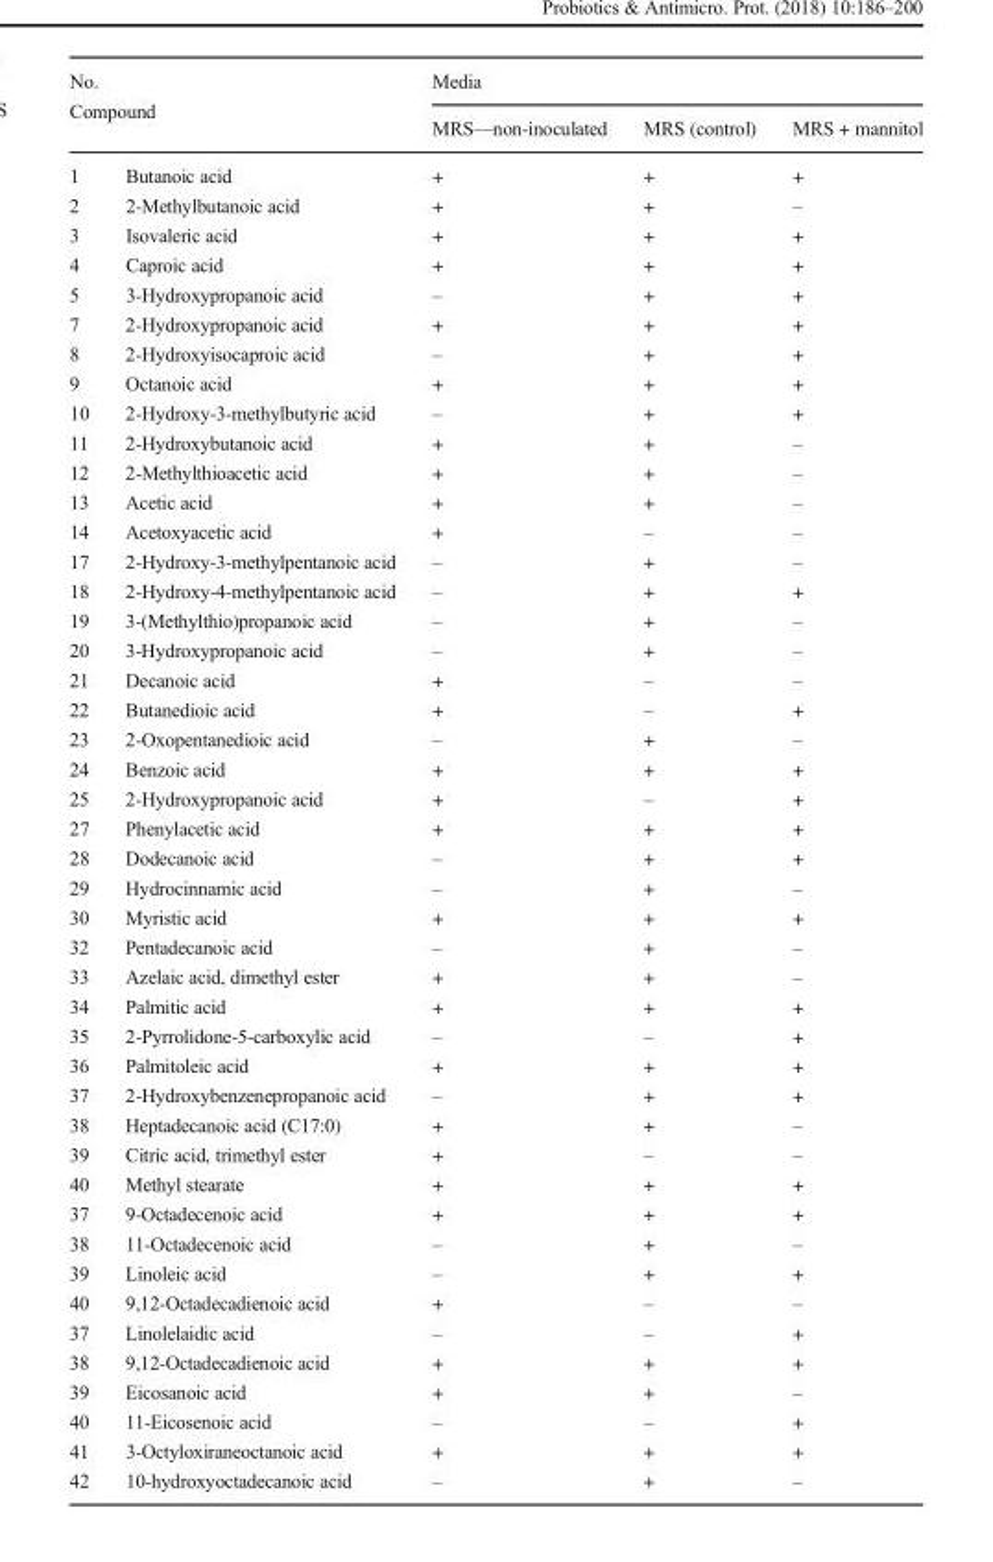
<table><thead><tr><td rowspan="2" colspan="2">No. Compound</td><td colspan="3">Media</td></tr><tr><td rowspan="2">MRS—non-inoculated +</td><td rowspan="2">MRS (control) +</td><td rowspan="2">MRS + mannitol +</td></tr><tr><td>1</td><td>Butanoic acid</td></tr></thead><tbody><tr><td>2</td><td>2-Methylbutanoic acid</td><td>+</td><td>+</td><td>–</td></tr><tr><td>3</td><td>Isovaleric acid</td><td>+</td><td>+</td><td>+</td></tr><tr><td>4</td><td>Caproic acid</td><td>+</td><td>+</td><td>+</td></tr><tr><td>5</td><td>3-Hydroxypropanoic acid</td><td>–</td><td>+</td><td>+</td></tr><tr><td>7</td><td>2-Hydroxypropanoic acid</td><td>+</td><td>+</td><td>+</td></tr><tr><td>8</td><td>2-Hydroxyisocaproic acid</td><td>–</td><td>+</td><td>+</td></tr><tr><td>9</td><td>Octanoic acid</td><td>+</td><td>+</td><td>+</td></tr><tr><td>10</td><td>2-Hydroxy-3-methylbutyric acid</td><td>–</td><td>+</td><td>+</td></tr><tr><td>11</td><td>2-Hydroxybutanoic acid</td><td>+</td><td>+</td><td>–</td></tr><tr><td>12</td><td>2-Methylthioacetic acid</td><td>+</td><td>+</td><td>–</td></tr><tr><td>13</td><td>Acetic acid</td><td>+</td><td>+</td><td>–</td></tr><tr><td>14</td><td>Acetoxyacetic acid</td><td>+</td><td>–</td><td>–</td></tr><tr><td>17</td><td>2-Hydroxy-3-methylpentanoic acid</td><td>–</td><td>+</td><td>–</td></tr><tr><td>18</td><td>2-Hydroxy-4-methylpentanoic acid</td><td>–</td><td>+</td><td>+</td></tr><tr><td>19</td><td>3-(Methylthio)propanoic acid</td><td>–</td><td>+</td><td>–</td></tr><tr><td>20</td><td>3-Hydroxypropanoic acid</td><td>–</td><td>+</td><td>–</td></tr><tr><td>21</td><td>Decanoic acid</td><td>+</td><td>–</td><td>–</td></tr><tr><td>22</td><td>Butanedioic acid</td><td>+</td><td>–</td><td>+</td></tr><tr><td>23</td><td>2-Oxopentanedioic acid</td><td>–</td><td>+</td><td>–</td></tr><tr><td>24</td><td>Benzoic acid</td><td>+</td><td>+</td><td>+</td></tr><tr><td>25</td><td>2-Hydroxypropanoic acid</td><td>+</td><td>–</td><td>+</td></tr><tr><td>27</td><td>Phenylacetic acid</td><td>+</td><td>+</td><td>+</td></tr><tr><td>28</td><td>Dodecanoic acid</td><td>–</td><td>+</td><td>+</td></tr><tr><td>29</td><td>Hydrocinnamic acid</td><td>–</td><td>+</td><td>–</td></tr><tr><td>30</td><td>Myristic acid</td><td>+</td><td>+</td><td>+</td></tr><tr><td>32</td><td>Pentadecanoic acid</td><td>–</td><td>+</td><td>–</td></tr><tr><td>33</td><td>Azelaic acid, dimethyl ester</td><td>+</td><td>+</td><td>–</td></tr><tr><td>34</td><td>Palmitic acid</td><td>+</td><td>+</td><td>+</td></tr><tr><td>35</td><td>2-Pyrrolidone-5-carboxylic acid</td><td>–</td><td>–</td><td>+</td></tr><tr><td>36</td><td>Palmitoleic acid</td><td>+</td><td>+</td><td>+</td></tr><tr><td>37</td><td>2-Hydroxybenzenepropanoic acid</td><td>–</td><td>+</td><td>+</td></tr><tr><td>38</td><td>Heptadecanoic acid (C17:0)</td><td>+</td><td>+</td><td>–</td></tr><tr><td>39</td><td>Citric acid, trimethyl ester</td><td>+</td><td>–</td><td>–</td></tr><tr><td>40</td><td>Methyl stearate</td><td>+</td><td>+</td><td>+</td></tr><tr><td>37</td><td>9-Octadecenoic acid</td><td>+</td><td>+</td><td>+</td></tr><tr><td>38</td><td>11-Octadecenoic acid</td><td>–</td><td>+</td><td>–</td></tr><tr><td>39</td><td>Linoleic acid</td><td>–</td><td>+</td><td>+</td></tr><tr><td>40</td><td>9,12-Octadecadienoic acid</td><td>+</td><td>–</td><td>–</td></tr><tr><td>37</td><td>Linolelaidic acid</td><td>–</td><td>–</td><td>+</td></tr><tr><td>38</td><td>9,12-Octadecadienoic acid</td><td>+</td><td>+</td><td>+</td></tr><tr><td>39</td><td>Eicosanoic acid</td><td>+</td><td>+</td><td>–</td></tr><tr><td>40</td><td>11-Eicosenoic acid</td><td>–</td><td>–</td><td>+</td></tr><tr><td>41</td><td>3-Octyloxiraneoctanoic acid</td><td>+</td><td>+</td><td>+</td></tr><tr><td>42</td><td>10-hydroxyoctadecanoic acid</td><td>–</td><td>+</td><td>–</td></tr></tbody></table>